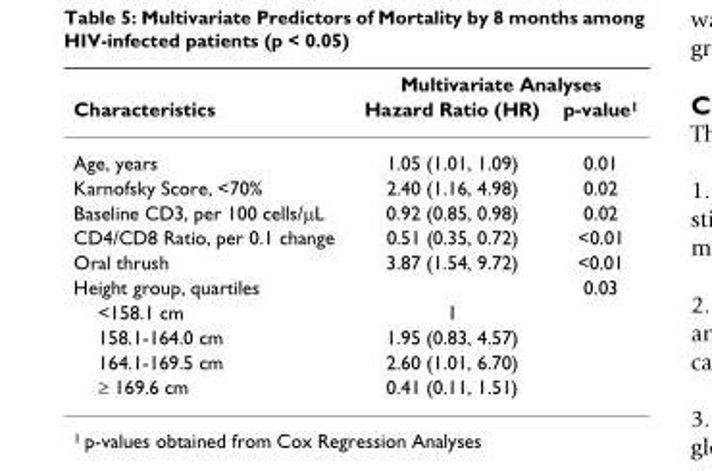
<table><thead><tr><td rowspan="2">Characteristics</td><td colspan="2">Multivariate Analyses</td></tr><tr><td>Hazard Ratio (HR)</td><td>p-value<sup>1</sup></td></tr></thead><tbody><tr><td>Age, years</td><td>1.05 (1.01, 1.09)</td><td>0.01</td></tr><tr><td>Karnofsky Score, &lt;70%</td><td>2.40 (1.16, 4.98)</td><td>0.02</td></tr><tr><td>Baseline CD3, per 100 cells/μL</td><td>0.92 (0.85, 0.98)</td><td>0.02</td></tr><tr><td>CD4/CD8 Ratio, per 0.1 change</td><td>0.51 (0.35, 0.72)</td><td>&lt;0.01</td></tr><tr><td>Oral thrush</td><td>3.87 (1.54, 9.72)</td><td>&lt;0.01</td></tr><tr><td>Height group, quartiles</td><td></td><td>0.03</td></tr><tr><td>&lt;158.1 cm</td><td>1</td><td></td></tr><tr><td>158.1-164.0 cm</td><td>1.95 (0.83, 4.57)</td><td></td></tr><tr><td>164.1-169.5 cm</td><td>2.60 (1.01, 6.70)</td><td></td></tr><tr><td>≥ 169.6 cm</td><td>0.41 (0.11, 1.51)</td><td></td></tr></tbody></table>